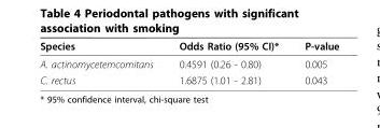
<table><thead><tr><td>Species</td><td>Odds Ratio (95% CI)*</td><td>P-value</td></tr></thead><tbody><tr><td>A. actinomycetemcomitans</td><td>0.4591 (0.26 - 0.80)</td><td>0.005</td></tr><tr><td>C. rectus</td><td>1.6875 (1.01 - 2.81)</td><td>0.043</td></tr></tbody></table>